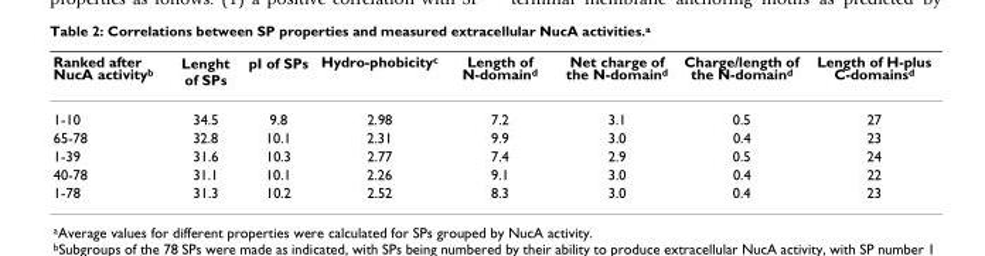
<table><thead><tr><td>Ranked after NucA activity<sup>b</sup></td><td>Lenght of SPs</td><td>pI of SPs</td><td>Hydro-phobicity<sup>c</sup></td><td>Length of N-domain<sup>d</sup></td><td>Net charge of the N-domain<sup>d</sup></td><td>Charge/length of the N-domain<sup>d</sup></td><td>Length of H-plus C-domains<sup>d</sup></td></tr></thead><tbody><tr><td>1-10</td><td>34.5</td><td>9.8</td><td>2.98</td><td>7.2</td><td>3.1</td><td>0.5</td><td>27</td></tr><tr><td>65-78</td><td>32.8</td><td>10.1</td><td>2.31</td><td>9.9</td><td>3.0</td><td>0.4</td><td>23</td></tr><tr><td>1-39</td><td>31.6</td><td>10.3</td><td>2.77</td><td>7.4</td><td>2.9</td><td>0.5</td><td>24</td></tr><tr><td>40-78</td><td>31.1</td><td>10.1</td><td>2.26</td><td>9.1</td><td>3.0</td><td>0.4</td><td>22</td></tr><tr><td>1-78</td><td>31.3</td><td>10.2</td><td>2.52</td><td>8.3</td><td>3.0</td><td>0.4</td><td>23</td></tr></tbody></table>